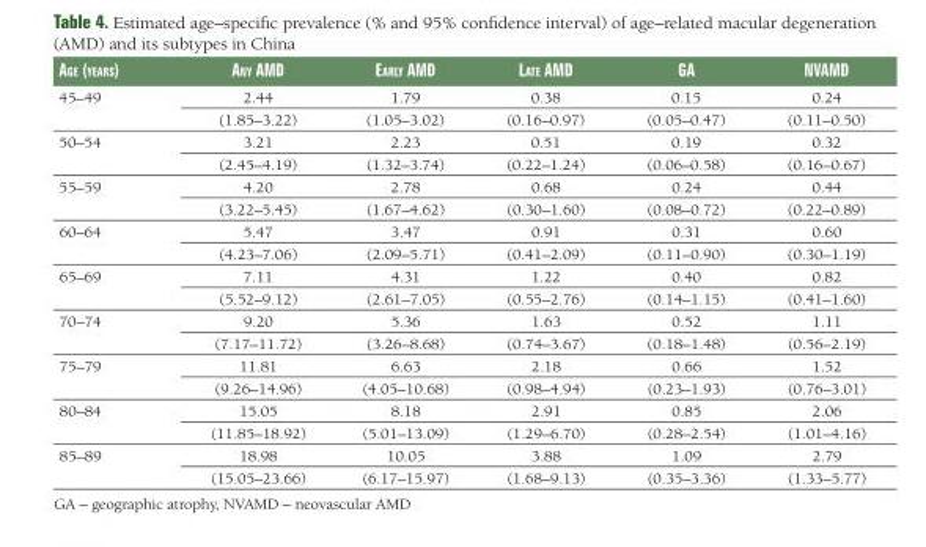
<table><thead><tr><td>age (yeaRs)</td><td>any amd</td><td>eaRly amd</td><td>late amd</td><td>ga</td><td>nvamd</td></tr></thead><tbody><tr><td rowspan="2">45–49</td><td>2.44</td><td>1.79</td><td>0.38</td><td>0.15</td><td>0.24</td></tr><tr><td>(1.85–3.22)</td><td>(1.05–3.02)</td><td>(0.16–0.97)</td><td>(0.05–0.47)</td><td>(0.11–0.50)</td></tr><tr><td rowspan="2">50–54</td><td>3.21</td><td>2.23</td><td>0.51</td><td>0.19</td><td>0.32</td></tr><tr><td>(2.45–4.19)</td><td>(1.32–3.74)</td><td>(0.22–1.24)</td><td>(0.06–0.58)</td><td>(0.16–0.67)</td></tr><tr><td rowspan="2">55–59</td><td>4.20</td><td>2.78</td><td>0.68</td><td>0.24</td><td>0.44</td></tr><tr><td>(3.22–5.45)</td><td>(1.67–4.62)</td><td>(0.30–1.60)</td><td>(0.08–0.72)</td><td>(0.22–0.89)</td></tr><tr><td rowspan="2">60–64</td><td>5.47</td><td>3.47</td><td>0.91</td><td>0.31</td><td>0.60</td></tr><tr><td>(4.23–7.06)</td><td>(2.09–5.71)</td><td>(0.41–2.09)</td><td>(0.11–0.90)</td><td>(0.30–1.19)</td></tr><tr><td rowspan="2">65–69</td><td>7.11</td><td>4.31</td><td>1.22</td><td>0.40</td><td>0.82</td></tr><tr><td>(5.52–9.12)</td><td>(2.61–7.05)</td><td>(0.55–2.76)</td><td>(0.14–1.15)</td><td>(0.41–1.60)</td></tr><tr><td rowspan="2">70–74</td><td>9.20</td><td>5.36</td><td>1.63</td><td>0.52</td><td>1.11</td></tr><tr><td>(7.17–11.72)</td><td>(3.26–8.68)</td><td>(0.74–3.67)</td><td>(0.18–1.48)</td><td>(0.56–2.19)</td></tr><tr><td rowspan="2">75–79</td><td>11.81</td><td>6.63</td><td>2.18</td><td>0.66</td><td>1.52</td></tr><tr><td>(9.26–14.96)</td><td>(4.05–10.68)</td><td>(0.98–4.94)</td><td>(0.23–1.93)</td><td>(0.76–3.01)</td></tr><tr><td rowspan="2">80–84</td><td>15.05</td><td>8.18</td><td>2.91</td><td>0.85</td><td>2.06</td></tr><tr><td>(11.85–18.92)</td><td>(5.01–13.09)</td><td>(1.29–6.70)</td><td>(0.28–2.54)</td><td>(1.01–4.16)</td></tr><tr><td rowspan="2">85–89</td><td>18.98</td><td>10.05</td><td>3.88</td><td>1.09</td><td>2.79</td></tr><tr><td>(15.05–23.66)</td><td>(6.17–15.97)</td><td>(1.68–9.13)</td><td>(0.35–3.36)</td><td>(1.33–5.77)</td></tr></tbody></table>